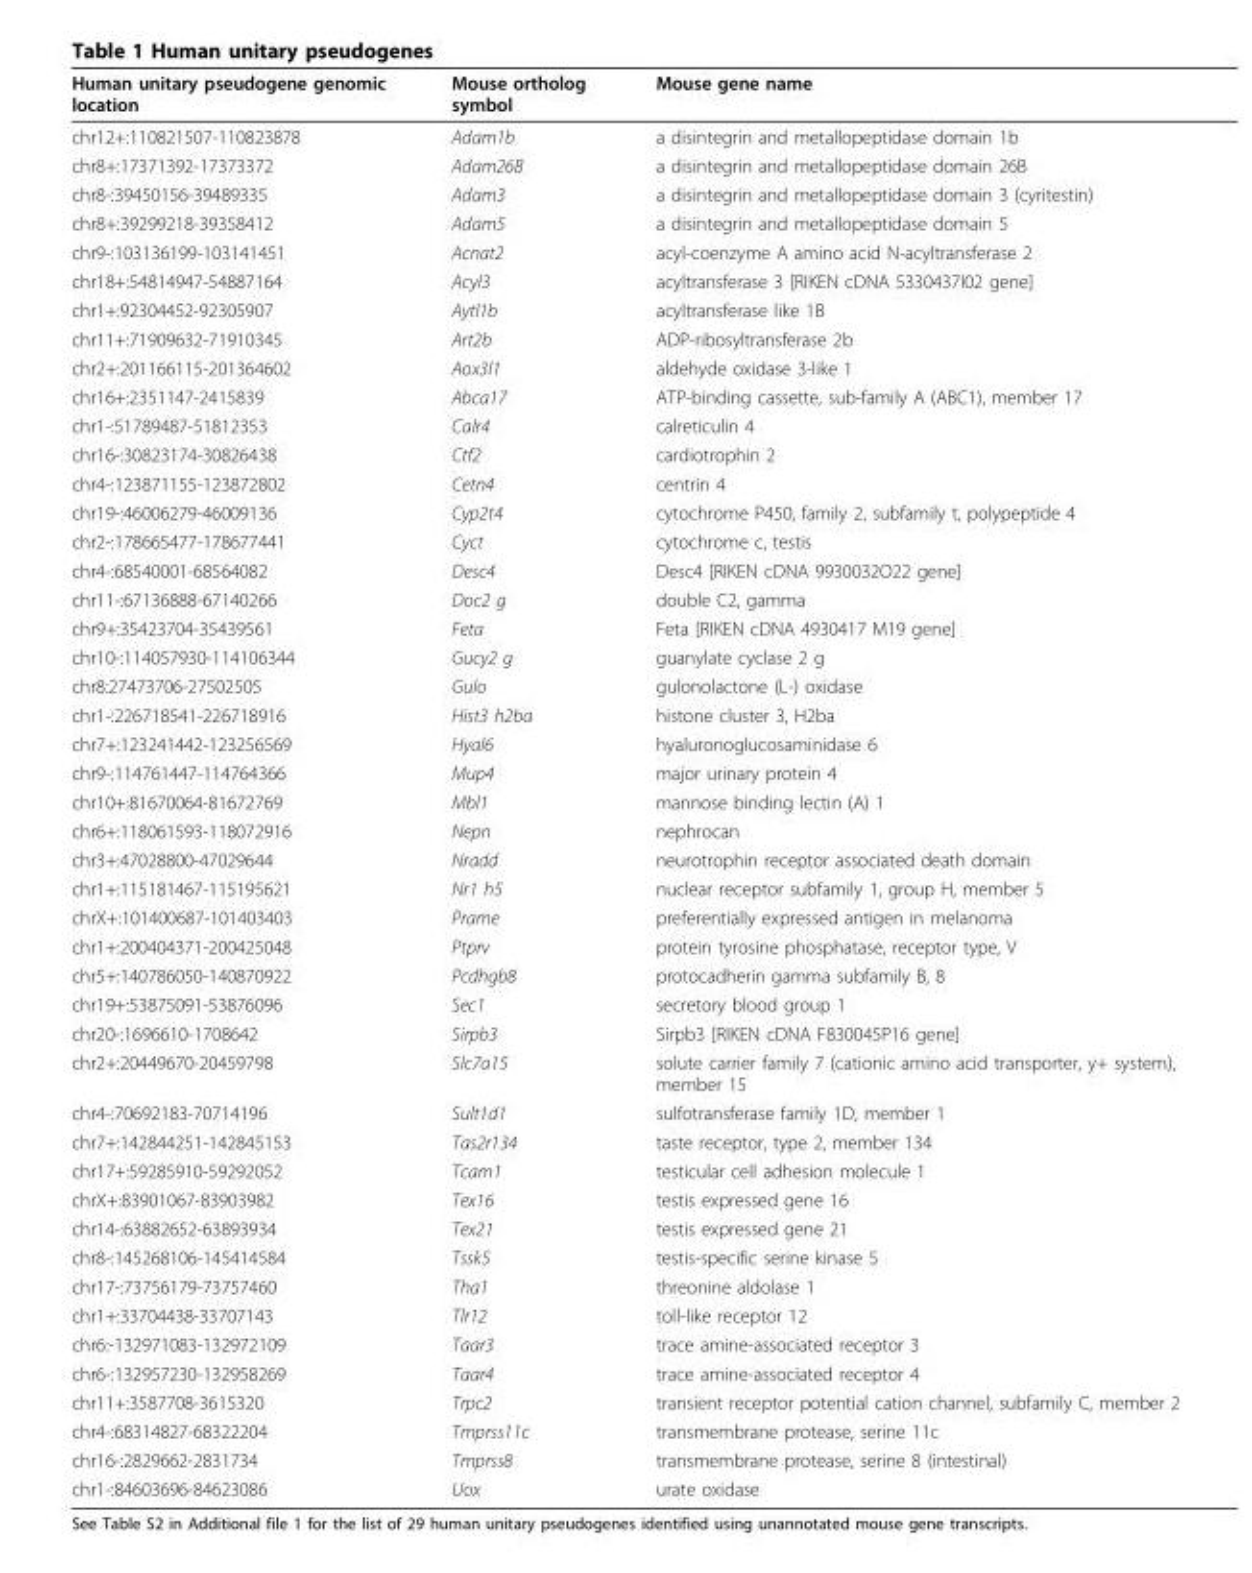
<table><thead><tr><td>Human unitary pseudogene genomic location</td><td>Mouse ortholog symbol</td><td>Mouse gene name</td></tr></thead><tbody><tr><td>chr12+:110821507-110823878</td><td>Adam1b</td><td>a disintegrin and metallopeptidase domain 1b</td></tr><tr><td>chr8+:17371392-17373372</td><td>Adam26B</td><td>a disintegrin and metallopeptidase domain 26B</td></tr><tr><td>chr8-:39450156-39489335</td><td>Adam3</td><td>a disintegrin and metallopeptidase domain 3 (cyritestin)</td></tr><tr><td>chr8+:39299218-39358412</td><td>Adam5</td><td>a disintegrin and metallopeptidase domain 5</td></tr><tr><td>chr9-:103136199-103141451</td><td>Acnat2</td><td>acyl-coenzyme A amino acid N-acyltransferase 2</td></tr><tr><td>chr18+:54814947-54887164</td><td>Acyl3</td><td>acyltransferase 3 [RIKEN cDNA 5330437I02 gene]</td></tr><tr><td>chr1+:92304452-92305907</td><td>Aytl1b</td><td>acyltransferase like 1B</td></tr><tr><td>chr11+:71909632-71910345</td><td>Art2b</td><td>ADP-ribosyltransferase 2b</td></tr><tr><td>chr2+:201166115-201364602</td><td>Aox3l1</td><td>aldehyde oxidase 3-like 1</td></tr><tr><td>chr16+:2351147-2415839</td><td>Abca17</td><td>ATP-binding cassette, sub-family A (ABC1), member 17</td></tr><tr><td>chr1-:51789487-51812353</td><td>Calr4</td><td>calreticulin 4</td></tr><tr><td>chr16-:30823174-30826438</td><td>Ctf2</td><td>cardiotrophin 2</td></tr><tr><td>chr4-:123871155-123872802</td><td>Cetn4</td><td>centrin 4</td></tr><tr><td>chr19-:46006279-46009136</td><td>Cyp2t4</td><td>cytochrome P450, family 2, subfamily t, polypeptide 4</td></tr><tr><td>chr2-:178665477-178677441</td><td>Cyct</td><td>cytochrome c, testis</td></tr><tr><td>chr4-:68540001-68564082</td><td>Desc4</td><td>Desc4 [RIKEN cDNA 9930032O22 gene]</td></tr><tr><td>chr11-:67136888-67140266</td><td>Doc2 g</td><td>double C2, gamma</td></tr><tr><td>chr9+:35423704-35439561</td><td>Feta</td><td>Feta [RIKEN cDNA 4930417 M19 gene]</td></tr><tr><td>chr10-:114057930-114106344</td><td>Gucy2 g</td><td>guanylate cyclase 2 g</td></tr><tr><td>chr8:27473706-27502505</td><td>Gulo</td><td>gulonolactone (L-) oxidase</td></tr><tr><td>chr1-:226718541-226718916</td><td>Hist3 h2ba</td><td>histone cluster 3, H2ba</td></tr><tr><td>chr7+:123241442-123256569</td><td>Hyal6</td><td>hyaluronoglucosaminidase 6</td></tr><tr><td>chr9-:114761447-114764366</td><td>Mup4</td><td>major urinary protein 4</td></tr><tr><td>chr10+:81670064-81672769</td><td>Mbl1</td><td>mannose binding lectin (A) 1</td></tr><tr><td>chr6+:118061593-118072916</td><td>Nepn</td><td>nephrocan</td></tr><tr><td>chr3+:47028800-47029644</td><td>Nradd</td><td>neurotrophin receptor associated death domain</td></tr><tr><td>chr1+:115181467-115195621</td><td>Nr1 h5</td><td>nuclear receptor subfamily 1, group H, member 5</td></tr><tr><td>chrX+:101400687-101403403</td><td>Prame</td><td>preferentially expressed antigen in melanoma</td></tr><tr><td>chr1+:200404371-200425048</td><td>Ptprv</td><td>protein tyrosine phosphatase, receptor type, V</td></tr><tr><td>chr5+:140786050-140870922</td><td>Pcdhgb8</td><td>protocadherin gamma subfamily B, 8</td></tr><tr><td>chr19+:53875091-53876096</td><td>Sec1</td><td>secretory blood group 1</td></tr><tr><td>chr20-:1696610-1708642</td><td>Sirpb3</td><td>Sirpb3 [RIKEN cDNA F830045P16 gene]</td></tr><tr><td>chr2+:20449670-20459798</td><td>Slc7a15</td><td>solute carrier family 7 (cationic amino acid transporter, y+ system), member 15</td></tr><tr><td>chr4-:70692183-70714196</td><td>Sult1d1</td><td>sulfotransferase family 1D, member 1</td></tr><tr><td>chr7+:142844251-142845153</td><td>Tas2r134</td><td>taste receptor, type 2, member 134</td></tr><tr><td>chr17+:59285910-59292052</td><td>Tcam1</td><td>testicular cell adhesion molecule 1</td></tr><tr><td>chrX+:83901067-83903982</td><td>Tex16</td><td>testis expressed gene 16</td></tr><tr><td>chr14-:63882652-63893934</td><td>Tex21</td><td>testis expressed gene 21</td></tr><tr><td>chr8-:145268106-145414584</td><td>Tssk5</td><td>testis-specific serine kinase 5</td></tr><tr><td>chr17-:73756179-73757460</td><td>Tha1</td><td>threonine aldolase 1</td></tr><tr><td>chr1+:33704438-33707143</td><td>Tlr12</td><td>toll-like receptor 12</td></tr><tr><td>chr6:-132971083-132972109</td><td>Taar3</td><td>trace amine-associated receptor 3</td></tr><tr><td>chr6-:132957230-132958269</td><td>Taar4</td><td>trace amine-associated receptor 4</td></tr><tr><td>chr11+:3587708-3615320</td><td>Trpc2</td><td>transient receptor potential cation channel, subfamily C, member 2</td></tr><tr><td>chr4-:68314827-68322204</td><td>Tmprss11c</td><td>transmembrane protease, serine 11c</td></tr><tr><td>chr16-:2829662-2831734</td><td>Tmprss8</td><td>transmembrane protease, serine 8 (intestinal)</td></tr><tr><td>chr1-:84603696-84623086</td><td>Uox</td><td>urate oxidase</td></tr></tbody></table>